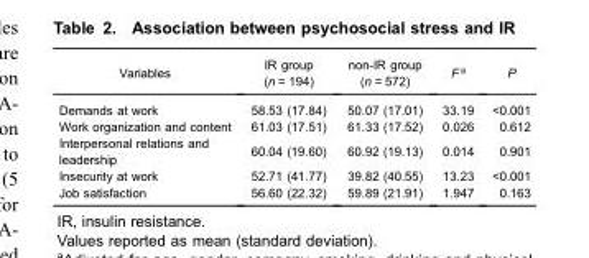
<table><thead><tr><td>Variables</td><td>IR group (n = 194)</td><td>non-IR group (n = 572)</td><td>F <sup>a</sup></td><td>P</td></tr></thead><tbody><tr><td>Demands at work</td><td>58.53 (17.84)</td><td>50.07 (17.01)</td><td>33.19</td><td>&lt;0.001</td></tr><tr><td>Work organization and content</td><td>61.03 (17.51)</td><td>61.33 (17.52)</td><td>0.026</td><td>0.612</td></tr><tr><td>Interpersonal relations and leadership</td><td>60.04 (19.60)</td><td>60.92 (19.13)</td><td>0.014</td><td>0.901</td></tr><tr><td>Insecurity at work</td><td>52.71 (41.77)</td><td>39.82 (40.55)</td><td>13.23</td><td>&lt;0.001</td></tr><tr><td>Job satisfaction</td><td>56.60 (22.32)</td><td>59.89 (21.91)</td><td>1.947</td><td>0.163</td></tr></tbody></table>